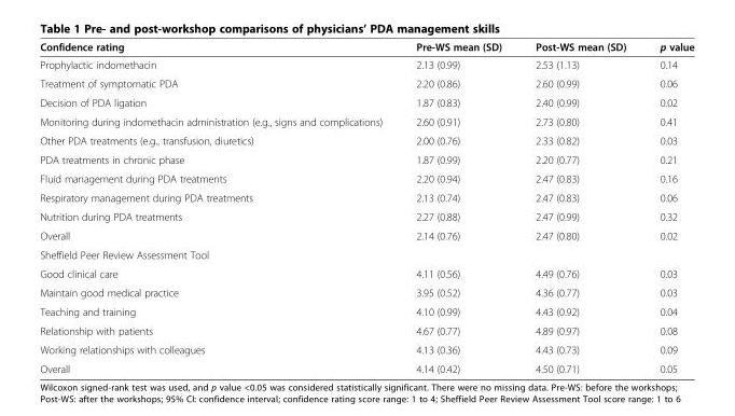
<table><thead><tr><td>Confidence rating</td><td>Pre-WS mean (SD)</td><td>Post-WS mean (SD)</td><td>p value</td></tr></thead><tbody><tr><td>Prophylactic indomethacin</td><td>2.13 (0.99)</td><td>2.53 (1.13)</td><td>0.14</td></tr><tr><td>Treatment of symptomatic PDA</td><td>2.20 (0.86)</td><td>2.60 (0.99)</td><td>0.06</td></tr><tr><td>Decision of PDA ligation</td><td>1.87 (0.83)</td><td>2.40 (0.99)</td><td>0.02</td></tr><tr><td>Monitoring during indomethacin administration (e.g., signs and complications)</td><td>2.60 (0.91)</td><td>2.73 (0.80)</td><td>0.41</td></tr><tr><td>Other PDA treatments (e.g., transfusion, diuretics)</td><td>2.00 (0.76)</td><td>2.33 (0.82)</td><td>0.03</td></tr><tr><td>PDA treatments in chronic phase</td><td>1.87 (0.99)</td><td>2.20 (0.77)</td><td>0.21</td></tr><tr><td>Fluid management during PDA treatments</td><td>2.20 (0.94)</td><td>2.47 (0.83)</td><td>0.16</td></tr><tr><td>Respiratory management during PDA treatments</td><td>2.13 (0.74)</td><td>2.47 (0.83)</td><td>0.06</td></tr><tr><td>Nutrition during PDA treatments</td><td>2.27 (0.88)</td><td>2.47 (0.99)</td><td>0.32</td></tr><tr><td>Overall</td><td>2.14 (0.76)</td><td>2.47 (0.80)</td><td>0.02</td></tr><tr><td colspan="4">Sheffield Peer Review Assessment Tool</td></tr><tr><td>Good clinical care</td><td>4.11 (0.56)</td><td>4.49 (0.76)</td><td>0.03</td></tr><tr><td>Maintain good medical practice</td><td>3.95 (0.52)</td><td>4.36 (0.77)</td><td>0.03</td></tr><tr><td>Teaching and training</td><td>4.10 (0.99)</td><td>4.43 (0.92)</td><td>0.04</td></tr><tr><td>Relationship with patients</td><td>4.67 (0.77)</td><td>4.89 (0.97)</td><td>0.08</td></tr><tr><td>Working relationships with colleagues</td><td>4.13 (0.36)</td><td>4.43 (0.73)</td><td>0.09</td></tr><tr><td>Overall</td><td>4.14 (0.42)</td><td>4.50 (0.71)</td><td>0.05</td></tr></tbody></table>